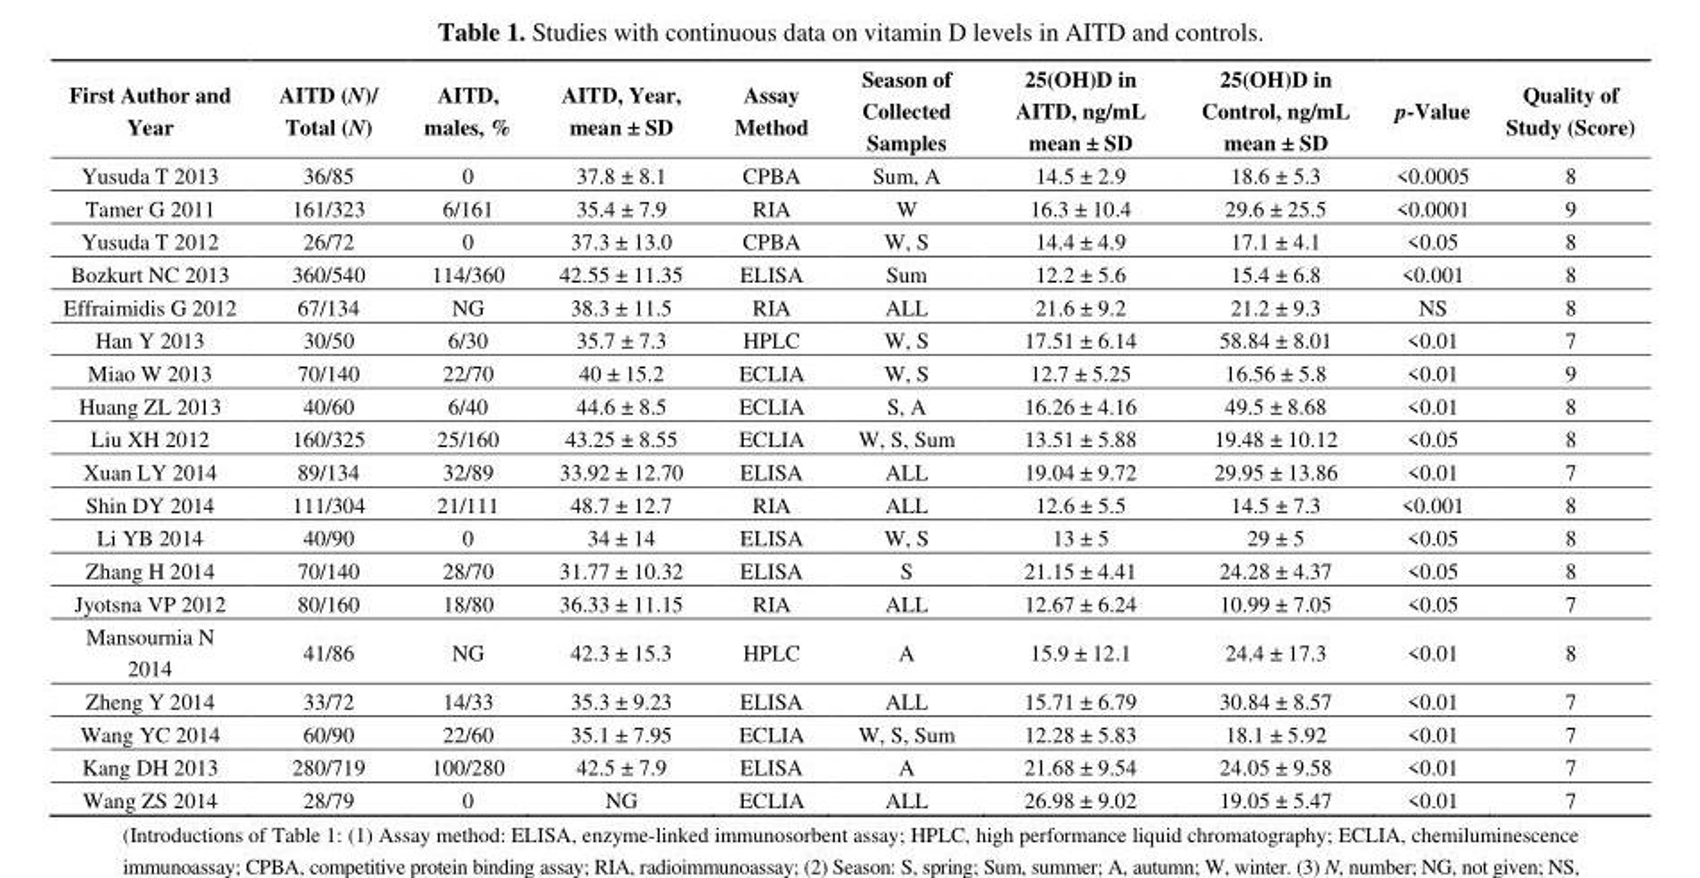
<table><thead><tr><td>First Author and Year</td><td>AITD (N)/ Total (N)</td><td>AITD, males, %</td><td>AITD, Year, mean ± SD</td><td>Assay Method</td><td>Season of Collected Samples</td><td>25(OH)D in AITD, ng/mL mean ± SD</td><td>25(OH)D in Control, ng/mL mean ± SD</td><td>p-Value</td><td>Quality of Study (Score)</td></tr></thead><tbody><tr><td>Yusuda T 2013</td><td>36/85</td><td>0</td><td>37.8 ± 8.1</td><td>CPBA</td><td>Sum, A</td><td>14.5 ± 2.9</td><td>18.6 ± 5.3</td><td>&lt;0.0005</td><td>8</td></tr><tr><td>Tamer G 2011</td><td>161/323</td><td>6/161</td><td>35.4 ± 7.9</td><td>RIA</td><td>W</td><td>16.3 ± 10.4</td><td>29.6 ± 25.5</td><td>&lt;0.0001</td><td>9</td></tr><tr><td>Yusuda T 2012</td><td>26/72</td><td>0</td><td>37.3 ± 13.0</td><td>CPBA</td><td>W, S</td><td>14.4 ± 4.9</td><td>17.1 ± 4.1</td><td>&lt;0.05</td><td>8</td></tr><tr><td>Bozkurt NC 2013</td><td>360/540</td><td>114/360</td><td>42.55 ± 11.35</td><td>ELISA</td><td>Sum</td><td>12.2 ± 5.6</td><td>15.4 ± 6.8</td><td>&lt;0.001</td><td>8</td></tr><tr><td>Effraimidis G 2012</td><td>67/134</td><td>NG</td><td>38.3 ± 11.5</td><td>RIA</td><td>ALL</td><td>21.6 ± 9.2</td><td>21.2 ± 9.3</td><td>NS</td><td>8</td></tr><tr><td>Han Y 2013</td><td>30/50</td><td>6/30</td><td>35.7 ± 7.3</td><td>HPLC</td><td>W, S</td><td>17.51 ± 6.14</td><td>58.84 ± 8.01</td><td>&lt;0.01</td><td>7</td></tr><tr><td>Miao W 2013</td><td>70/140</td><td>22/70</td><td>40 ± 15.2</td><td>ECLIA</td><td>W, S</td><td>12.7 ± 5.25</td><td>16.56 ± 5.8</td><td>&lt;0.01</td><td>9</td></tr><tr><td>Huang ZL 2013</td><td>40/60</td><td>6/40</td><td>44.6 ± 8.5</td><td>ECLIA</td><td>S, A</td><td>16.26 ± 4.16</td><td>49.5 ± 8.68</td><td>&lt;0.01</td><td>8</td></tr><tr><td>Liu XH 2012</td><td>160/325</td><td>25/160</td><td>43.25 ± 8.55</td><td>ECLIA</td><td>W, S, Sum</td><td>13.51 ± 5.88</td><td>19.48 ± 10.12</td><td>&lt;0.05</td><td>8</td></tr><tr><td>Xuan LY 2014</td><td>89/134</td><td>32/89</td><td>33.92 ± 12.70</td><td>ELISA</td><td>ALL</td><td>19.04 ± 9.72</td><td>29.95 ± 13.86</td><td>&lt;0.01</td><td>7</td></tr><tr><td>Shin DY 2014</td><td>111/304</td><td>21/111</td><td>48.7 ± 12.7</td><td>RIA</td><td>ALL</td><td>12.6 ± 5.5</td><td>14.5 ± 7.3</td><td>&lt;0.001</td><td>8</td></tr><tr><td>Li YB 2014</td><td>40/90</td><td>0</td><td>34 ± 14</td><td>ELISA</td><td>W, S</td><td>13 ± 5</td><td>29 ± 5</td><td>&lt;0.05</td><td>8</td></tr><tr><td>Zhang H 2014</td><td>70/140</td><td>28/70</td><td>31.77 ± 10.32</td><td>ELISA</td><td>S</td><td>21.15 ± 4.41</td><td>24.28 ± 4.37</td><td>&lt;0.05</td><td>8</td></tr><tr><td>Jyotsna VP 2012</td><td>80/160</td><td>18/80</td><td>36.33 ± 11.15</td><td>RIA</td><td>ALL</td><td>12.67 ± 6.24</td><td>10.99 ± 7.05</td><td>&lt;0.05</td><td>7</td></tr><tr><td>Mansournia N 2014</td><td>41/86</td><td>NG</td><td>42.3 ± 15.3</td><td>HPLC</td><td>A</td><td>15.9 ± 12.1</td><td>24.4 ± 17.3</td><td>&lt;0.01</td><td>8</td></tr><tr><td>Zheng Y 2014</td><td>33/72</td><td>14/33</td><td>35.3 ± 9.23</td><td>ELISA</td><td>ALL</td><td>15.71 ± 6.79</td><td>30.84 ± 8.57</td><td>&lt;0.01</td><td>7</td></tr><tr><td>Wang YC 2014</td><td>60/90</td><td>22/60</td><td>35.1 ± 7.95</td><td>ECLIA</td><td>W, S, Sum</td><td>12.28 ± 5.83</td><td>18.1 ± 5.92</td><td>&lt;0.01</td><td>7</td></tr><tr><td>Kang DH 2013</td><td>280/719</td><td>100/280</td><td>42.5 ± 7.9</td><td>ELISA</td><td>A</td><td>21.68 ± 9.54</td><td>24.05 ± 9.58</td><td>&lt;0.01</td><td>7</td></tr><tr><td>Wang ZS 2014</td><td>28/79</td><td>0</td><td>NG</td><td>ECLIA</td><td>ALL</td><td>26.98 ± 9.02</td><td>19.05 ± 5.47</td><td>&lt;0.01</td><td>7</td></tr></tbody></table>